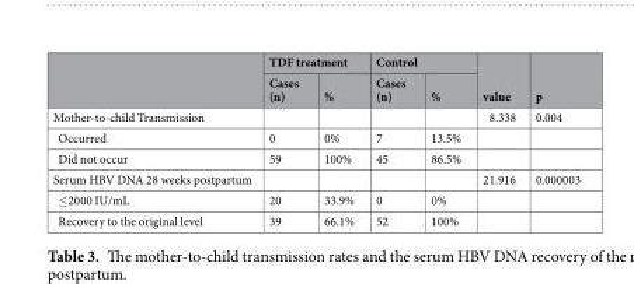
<table><thead><tr><td rowspan="2"></td><td colspan="2">TDF treatment</td><td colspan="2">Control</td><td rowspan="2">value</td><td rowspan="2">p</td></tr><tr><td>Cases (n)</td><td>%</td><td>Cases (n)</td><td>%</td></tr></thead><tbody><tr><td>Mother-to-child Transmission</td><td></td><td></td><td></td><td></td><td>8.338</td><td>0.004</td></tr><tr><td>Occurred</td><td>0</td><td>0%</td><td>7</td><td>13.5%</td><td></td><td></td></tr><tr><td>Did not occur</td><td>59</td><td>100%</td><td>45</td><td>86.5%</td><td></td><td></td></tr><tr><td>Serum HBV DNA 28 weeks postpartum</td><td></td><td></td><td></td><td></td><td>21.916</td><td>0.000003</td></tr><tr><td>≤2000 IU/mL</td><td>20</td><td>33.9%</td><td>0</td><td>0%</td><td></td><td></td></tr><tr><td>Recovery to the original level</td><td>39</td><td>66.1%</td><td>52</td><td>100%</td><td></td><td></td></tr></tbody></table>